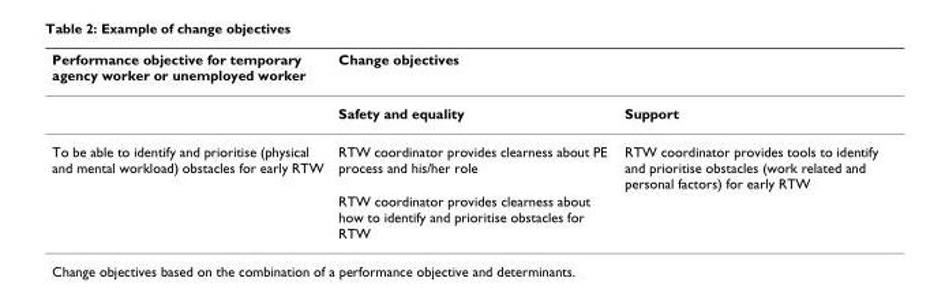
<table><thead><tr><td rowspan="2">Performance objective for temporary agency worker or unemployed worker</td><td colspan="2">Change objectives</td></tr><tr><td>Safety and equality</td><td>Support</td></tr></thead><tbody><tr><td rowspan="2">To be able to identify and prioritise (physical and mental workload) obstacles for early RTW</td><td>RTW coordinator provides clearness about PE process and his/her role</td><td>RTW coordinator provides tools to identify and prioritise obstacles (work related and personal factors) for early RTW</td></tr><tr><td>RTW coordinator provides clearness about how to identify and prioritise obstacles for RTW</td><td></td></tr></tbody></table>